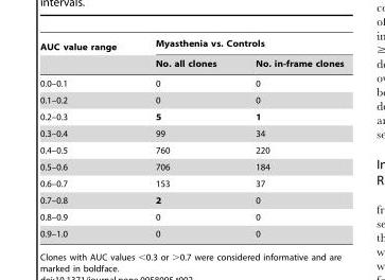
<table><thead><tr><td rowspan="2">AUC value range</td><td colspan="2">Myasthenia vs. Controls</td></tr><tr><td>No. all clones</td><td>No. in-frame clones</td></tr></thead><tbody><tr><td>0.0–0.1</td><td>0</td><td>0</td></tr><tr><td>0.1–0.2</td><td>0</td><td>0</td></tr><tr><td>0.2–0.3</td><td>5</td><td>1</td></tr><tr><td>0.3–0.4</td><td>99</td><td>34</td></tr><tr><td>0.4–0.5</td><td>760</td><td>220</td></tr><tr><td>0.5–0.6</td><td>706</td><td>184</td></tr><tr><td>0.6–0.7</td><td>153</td><td>37</td></tr><tr><td>0.7–0.8</td><td>2</td><td>0</td></tr><tr><td>0.8–0.9</td><td>0</td><td>0</td></tr><tr><td>0.9–1.0</td><td>0</td><td>0</td></tr></tbody></table>